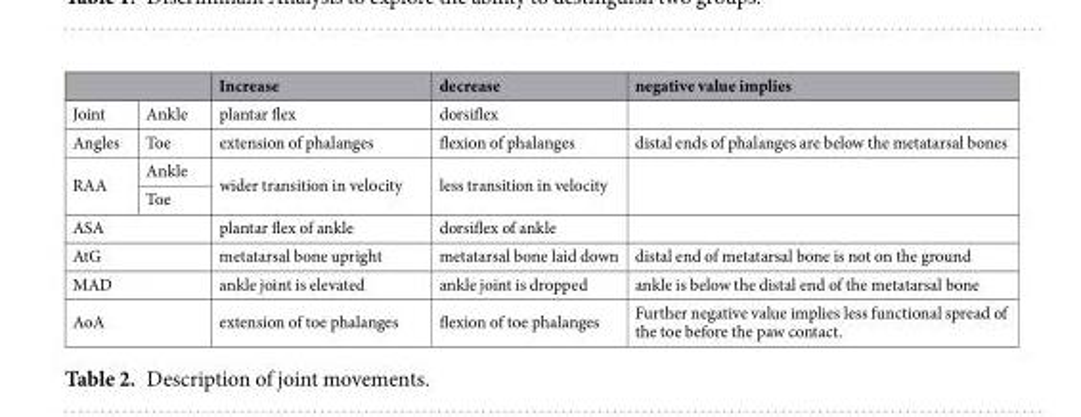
<table><thead><tr><td></td><td></td><td>Increase</td><td>decrease</td><td>negative value implies</td></tr></thead><tbody><tr><td>Joint</td><td>Ankle</td><td>plantar flex</td><td>dorsiflex</td><td></td></tr><tr><td>Angles</td><td>Toe</td><td>extension of phalanges</td><td>flexion of phalanges</td><td>distal ends of phalanges are below the metatarsal bones</td></tr><tr><td rowspan="2">RAA</td><td>Ankle</td><td rowspan="2">wider transition in velocity</td><td rowspan="2">less transition in velocity</td><td rowspan="2"></td></tr><tr><td>Toe</td></tr><tr><td colspan="2">ASA</td><td>plantar flex of ankle</td><td>dorsiflex of ankle</td><td></td></tr><tr><td colspan="2">AtG</td><td>metatarsal bone upright</td><td>metatarsal bone laid down</td><td>distal end of metatarsal bone is not on the ground</td></tr><tr><td colspan="2">MAD</td><td>ankle joint is elevated</td><td>ankle joint is dropped</td><td>ankle is below the distal end of the metatarsal bone</td></tr><tr><td colspan="2">AoA</td><td>extension of toe phalanges</td><td>flexion of toe phalanges</td><td>Further negative value implies less functional spread of the toe before the paw contact.</td></tr></tbody></table>